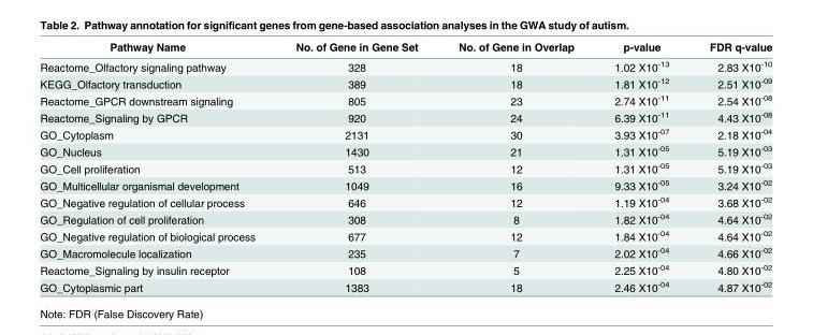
<table><thead><tr><td>Pathway Name</td><td>No. of Gene in Gene Set</td><td>No. of Gene in Overlap</td><td>p-value</td><td>FDR q-value</td></tr></thead><tbody><tr><td>Reactome_Olfactory signaling pathway</td><td>328</td><td>18</td><td>1.02 X10<sup>-13</sup></td><td>2.83 X10<sup>-10</sup></td></tr><tr><td>KEGG_Olfactory transduction</td><td>389</td><td>18</td><td>1.81 X10<sup>-12</sup></td><td>2.51 X10<sup>-09</sup></td></tr><tr><td>Reactome_GPCR downstream signaling</td><td>805</td><td>23</td><td>2.74 X10<sup>-11</sup></td><td>2.54 X10<sup>-08</sup></td></tr><tr><td>Reactome_Signaling by GPCR</td><td>920</td><td>24</td><td>6.39 X10<sup>-11</sup></td><td>4.43 X10<sup>-08</sup></td></tr><tr><td>GO_Cytoplasm</td><td>2131</td><td>30</td><td>3.93 X10<sup>-07</sup></td><td>2.18 X10<sup>-04</sup></td></tr><tr><td>GO_Nucleus</td><td>1430</td><td>21</td><td>1.31 X10<sup>-05</sup></td><td>5.19 X10<sup>-03</sup></td></tr><tr><td>GO_Cell proliferation</td><td>513</td><td>12</td><td>1.31 X10<sup>-05</sup></td><td>5.19 X10<sup>-03</sup></td></tr><tr><td>GO_Multicellular organismal development</td><td>1049</td><td>16</td><td>9.33 X10<sup>-05</sup></td><td>3.24 X10<sup>-02</sup></td></tr><tr><td>GO_Negative regulation of cellular process</td><td>646</td><td>12</td><td>1.19 X10<sup>-04</sup></td><td>3.68 X10<sup>-02</sup></td></tr><tr><td>GO_Regulation of cell proliferation</td><td>308</td><td>8</td><td>1.82 X10<sup>-04</sup></td><td>4.64 X10<sup>-02</sup></td></tr><tr><td>GO_Negative regulation of biological process</td><td>677</td><td>12</td><td>1.84 X10<sup>-04</sup></td><td>4.64 X10<sup>-02</sup></td></tr><tr><td>GO_Macromolecule localization</td><td>235</td><td>7</td><td>2.02 X10<sup>-04</sup></td><td>4.66 X10<sup>-02</sup></td></tr><tr><td>Reactome_Signaling by insulin receptor</td><td>108</td><td>5</td><td>2.25 X10<sup>-04</sup></td><td>4.80 X10<sup>-02</sup></td></tr><tr><td>GO_Cytoplasmic part</td><td>1383</td><td>18</td><td>2.46 X10<sup>-04</sup></td><td>4.87 X10<sup>-02</sup></td></tr></tbody></table>